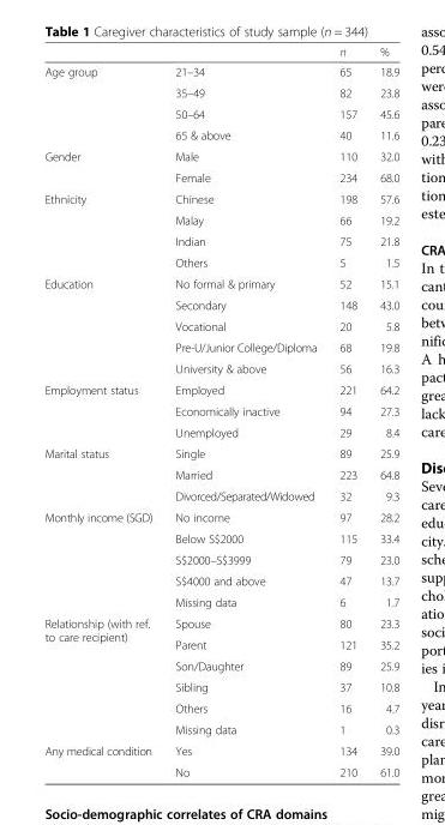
<table><thead><tr><td></td><td></td><td>n</td><td>%</td></tr></thead><tbody><tr><td rowspan="4">Age group</td><td>21–34</td><td>65</td><td>18.9</td></tr><tr><td>35–49</td><td>82</td><td>23.8</td></tr><tr><td>50–64</td><td>157</td><td>45.6</td></tr><tr><td>65 &amp; above</td><td>40</td><td>11.6</td></tr><tr><td rowspan="2">Gender</td><td>Male</td><td>110</td><td>32.0</td></tr><tr><td>Female</td><td>234</td><td>68.0</td></tr><tr><td rowspan="4">Ethnicity</td><td>Chinese</td><td>198</td><td>57.6</td></tr><tr><td>Malay</td><td>66</td><td>19.2</td></tr><tr><td>Indian</td><td>75</td><td>21.8</td></tr><tr><td>Others</td><td>5</td><td>1.5</td></tr><tr><td rowspan="5">Education</td><td>No formal &amp; primary</td><td>52</td><td>15.1</td></tr><tr><td>Secondary</td><td>148</td><td>43.0</td></tr><tr><td>Vocational</td><td>20</td><td>5.8</td></tr><tr><td>Pre-U/Junior College/Diploma</td><td>68</td><td>19.8</td></tr><tr><td>University &amp; above</td><td>56</td><td>16.3</td></tr><tr><td rowspan="3">Employment status</td><td>Employed</td><td>221</td><td>64.2</td></tr><tr><td>Economically inactive</td><td>94</td><td>27.3</td></tr><tr><td>Unemployed</td><td>29</td><td>8.4</td></tr><tr><td rowspan="3">Marital status</td><td>Single</td><td>89</td><td>25.9</td></tr><tr><td>Married</td><td>223</td><td>64.8</td></tr><tr><td>Divorced/Separated/Widowed</td><td>32</td><td>9.3</td></tr><tr><td rowspan="5">Monthly income (SGD)</td><td>No income</td><td>97</td><td>28.2</td></tr><tr><td>Below S$2000</td><td>115</td><td>33.4</td></tr><tr><td>S$2000–S$3999</td><td>79</td><td>23.0</td></tr><tr><td>S$4000 and above</td><td>47</td><td>13.7</td></tr><tr><td>Missing data</td><td>6</td><td>1.7</td></tr><tr><td rowspan="6">Relationship (with ref. to care recipient)</td><td>Spouse</td><td>80</td><td>23.3</td></tr><tr><td>Parent</td><td>121</td><td>35.2</td></tr><tr><td>Son/Daughter</td><td>89</td><td>25.9</td></tr><tr><td>Sibling</td><td>37</td><td>10.8</td></tr><tr><td>Others</td><td>16</td><td>4.7</td></tr><tr><td>Missing data</td><td>1</td><td>0.3</td></tr><tr><td rowspan="2">Any medical condition</td><td>Yes</td><td>134</td><td>39.0</td></tr><tr><td>No</td><td>210</td><td>61.0</td></tr></tbody></table>